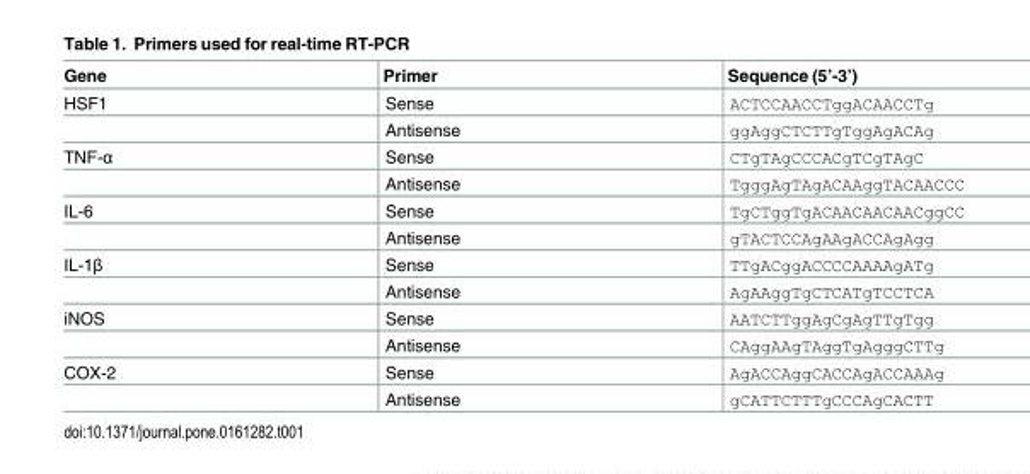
<table><thead><tr><td>Gene</td><td>Primer</td><td>Sequence (5’-3’)</td></tr></thead><tbody><tr><td rowspan="2">HSF1</td><td>Sense</td><td>ACTCCAACCTggACAACCTg</td></tr><tr><td>Antisense</td><td>ggAggCTCTTgTggAgACAg</td></tr><tr><td rowspan="2">TNF-α</td><td>Sense</td><td>CTgTAgCCCACgTCgTAgC</td></tr><tr><td>Antisense</td><td>TgggAgTAgACAAggTACAACCC</td></tr><tr><td rowspan="2">IL-6</td><td>Sense</td><td>TgCTggTgACAACAACAACggCC</td></tr><tr><td>Antisense</td><td>gTACTCCAgAAgACCAgAgg</td></tr><tr><td rowspan="2">IL-1β</td><td>Sense</td><td>TTgACggACCCCAAAAgATg</td></tr><tr><td>Antisense</td><td>AgAAggTgCTCATgTCCTCA</td></tr><tr><td rowspan="2">iNOS</td><td>Sense</td><td>AATCTTggAgCgAgTTgTgg</td></tr><tr><td>Antisense</td><td>CAggAAgTAggTgAgggCTTg</td></tr><tr><td rowspan="2">COX-2</td><td>Sense</td><td>AgACCAggCACCAgACCAAAg</td></tr><tr><td>Antisense</td><td>gCATTCTTTgCCCAgCACTT</td></tr></tbody></table>